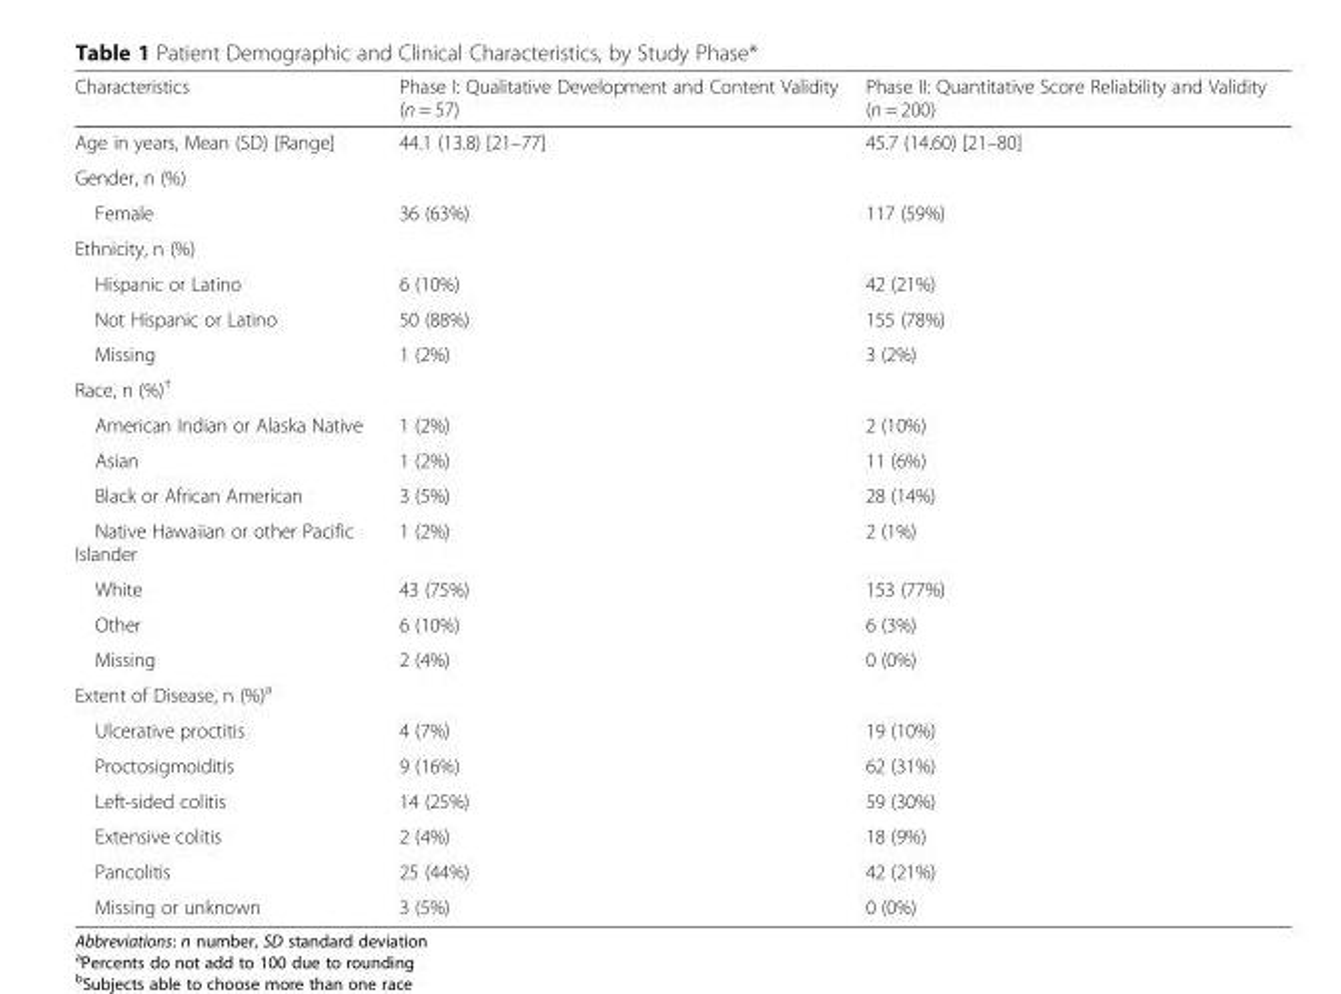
<table><thead><tr><td>Characteristics</td><td>Phase I: Qualitative Development and Content Validity (n = 57)</td><td>Phase II: Quantitative Score Reliability and Validity (n = 200)</td></tr></thead><tbody><tr><td>Age in years, Mean (SD) [Range]</td><td>44.1 (13.8) [21–77]</td><td>45.7 (14.60) [21–80]</td></tr><tr><td colspan="3">Gender, n (%)</td></tr><tr><td>Female</td><td>36 (63%)</td><td>117 (59%)</td></tr><tr><td colspan="3">Ethnicity, n (%)</td></tr><tr><td>Hispanic or Latino</td><td>6 (10%)</td><td>42 (21%)</td></tr><tr><td>Not Hispanic or Latino</td><td>50 (88%)</td><td>155 (78%)</td></tr><tr><td>Missing</td><td>1 (2%)</td><td>3 (2%)</td></tr><tr><td colspan="3">Race, n (%)<sup>†</sup></td></tr><tr><td>American Indian or Alaska Native</td><td>1 (2%)</td><td>2 (10%)</td></tr><tr><td>Asian</td><td>1 (2%)</td><td>11 (6%)</td></tr><tr><td>Black or African American</td><td>3 (5%)</td><td>28 (14%)</td></tr><tr><td>Native Hawaiian or other Pacific Islander</td><td>1 (2%)</td><td>2 (1%)</td></tr><tr><td>White</td><td>43 (75%)</td><td>153 (77%)</td></tr><tr><td>Other</td><td>6 (10%)</td><td>6 (3%)</td></tr><tr><td>Missing</td><td>2 (4%)</td><td>0 (0%)</td></tr><tr><td colspan="3">Extent of Disease, n (%)<sup>a</sup></td></tr><tr><td>Ulcerative proctitis</td><td>4 (7%)</td><td>19 (10%)</td></tr><tr><td>Proctosigmoiditis</td><td>9 (16%)</td><td>62 (31%)</td></tr><tr><td>Left-sided colitis</td><td>14 (25%)</td><td>59 (30%)</td></tr><tr><td>Extensive colitis</td><td>2 (4%)</td><td>18 (9%)</td></tr><tr><td>Pancolitis</td><td>25 (44%)</td><td>42 (21%)</td></tr><tr><td>Missing or unknown</td><td>3 (5%)</td><td>0 (0%)</td></tr></tbody></table>